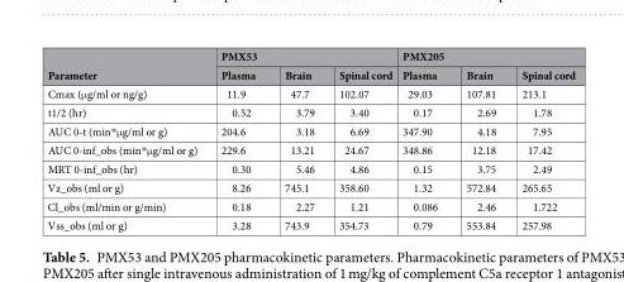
<table><thead><tr><td rowspan="2">Parameter</td><td colspan="3">PMX53</td><td colspan="3">PMX205</td></tr><tr><td>Plasma</td><td>Brain</td><td>Spinal cord</td><td>Plasma</td><td>Brain</td><td>Spinal cord</td></tr></thead><tbody><tr><td>Cmax (μg/ml or ng/g)</td><td>11.9</td><td>47.7</td><td>102.07</td><td>29.03</td><td>107.81</td><td>213.1</td></tr><tr><td>t1/2 (hr)</td><td>0.52</td><td>3.79</td><td>3.40</td><td>0.17</td><td>2.69</td><td>1.78</td></tr><tr><td>AUC 0-t (min*μg/ml or g)</td><td>204.6</td><td>3.18</td><td>6.69</td><td>347.90</td><td>4.18</td><td>7.95</td></tr><tr><td>AUC 0-inf_obs (min*μg/ml or g)</td><td>229.6</td><td>13.21</td><td>24.67</td><td>348.86</td><td>12.18</td><td>17.42</td></tr><tr><td>MRT 0-inf_obs (hr)</td><td>0.30</td><td>5.46</td><td>4.86</td><td>0.15</td><td>3.75</td><td>2.49</td></tr><tr><td>Vz_obs (ml or g)</td><td>8.26</td><td>745.1</td><td>358.60</td><td>1.32</td><td>572.84</td><td>265.65</td></tr><tr><td>Cl_obs (ml/min or g/min)</td><td>0.18</td><td>2.27</td><td>1.21</td><td>0.086</td><td>2.46</td><td>1.722</td></tr><tr><td>Vss_obs (ml or g)</td><td>3.28</td><td>743.9</td><td>354.73</td><td>0.79</td><td>553.84</td><td>257.98</td></tr></tbody></table>